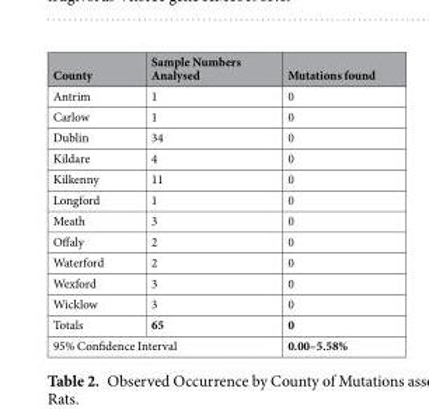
<table><thead><tr><td>County</td><td>Sample Numbers Analysed</td><td>Mutations found</td></tr></thead><tbody><tr><td>Antrim</td><td>1</td><td>0</td></tr><tr><td>Carlow</td><td>1</td><td>0</td></tr><tr><td>Dublin</td><td>34</td><td>0</td></tr><tr><td>Kildare</td><td>4</td><td>0</td></tr><tr><td>Kilkenny</td><td>11</td><td>0</td></tr><tr><td>Longford</td><td>1</td><td>0</td></tr><tr><td>Meath</td><td>3</td><td>0</td></tr><tr><td>Offaly</td><td>2</td><td>0</td></tr><tr><td>Waterford</td><td>2</td><td>0</td></tr><tr><td>Wexford</td><td>3</td><td>0</td></tr><tr><td>Wicklow</td><td>3</td><td>0</td></tr><tr><td>Totals</td><td>65</td><td>0</td></tr><tr><td colspan="2">95% Confidence Interval</td><td>0.00–5.58%</td></tr></tbody></table>